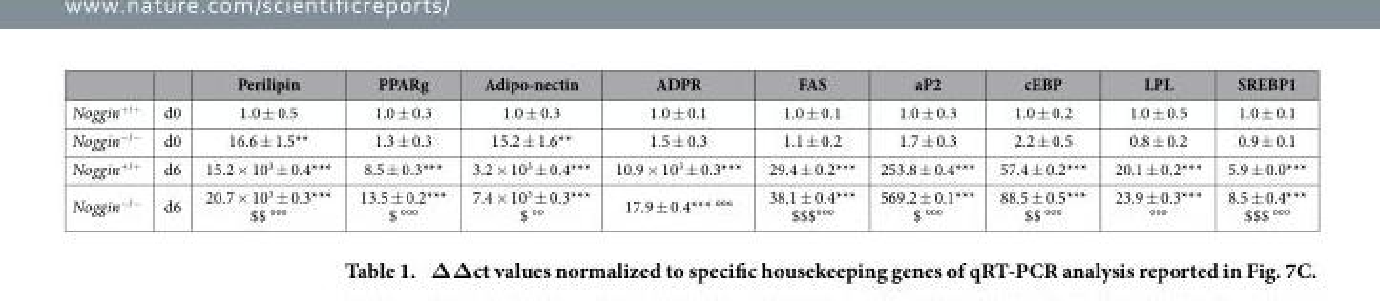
<table><thead><tr><td></td><td></td><td>Perilipin</td><td>PPARg</td><td>Adipo-nectin</td><td>ADPR</td><td>FAS</td><td>aP2</td><td>cEBP</td><td>LPL</td><td>SREBP1</td></tr></thead><tbody><tr><td>Noggin<sup>+/+</sup></td><td>d0</td><td>1.0 ± 0.5</td><td>1.0 ± 0.3</td><td>1.0 ± 0.3</td><td>1.0 ± 0.1</td><td>1.0 ± 0.1</td><td>1.0 ± 0.3</td><td>1.0 ± 0.2</td><td>1.0 ± 0.5</td><td>1.0 ± 0.1</td></tr><tr><td>Noggin<sup>−/−</sup></td><td>d0</td><td>16.6 ± 1.5**</td><td>1.3 ± 0.3</td><td>15.2 ± 1.6**</td><td>1.5 ± 0.3</td><td>1.1 ± 0.2</td><td>1.7 ± 0.3</td><td>2.2 ± 0.5</td><td>0.8 ± 0.2</td><td>0.9 ± 0.1</td></tr><tr><td>Noggin<sup>+/+</sup></td><td>d6</td><td>15.2 × 10<sup>3</sup> ± 0.4***</td><td>8.5 ± 0.3***</td><td>3.2 × 10<sup>3</sup> ± 0.4***</td><td>10.9 × 10<sup>3</sup> ± 0.3***</td><td>29.4 ± 0.2***</td><td>253.8 ± 0.4***</td><td>57.4 ± 0.2***</td><td>20.1 ± 0.2***</td><td>5.9 ± 0.0***</td></tr><tr><td>Noggin<sup>−/−</sup></td><td>d6</td><td>20.7 × 10<sup>3</sup> ± 0.3*** $$ °°°</td><td>13.5 ± 0.2*** $ °°°</td><td>7.4 × 10<sup>3</sup> ± 0.3*** $ °°</td><td>17.9 ± 0.4*** °°°</td><td>38.1 ± 0.4*** $$$°°°</td><td>569.2 ± 0.1*** $ °°°</td><td>88.5 ± 0.5*** $$ °°°</td><td>23.9 ± 0.3*** °°°</td><td>8.5 ± 0.4*** $$$ °°°</td></tr></tbody></table>